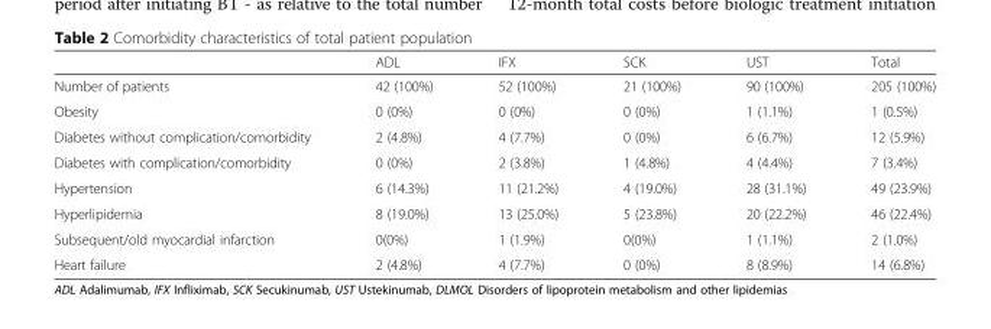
<table><thead><tr><td></td><td>ADL</td><td>IFX</td><td>SCK</td><td>UST</td><td>Total</td></tr></thead><tbody><tr><td>Number of patients</td><td>42 (100%)</td><td>52 (100%)</td><td>21 (100%)</td><td>90 (100%)</td><td>205 (100%)</td></tr><tr><td>Obesity</td><td>0 (0%)</td><td>0 (0%)</td><td>0 (0%)</td><td>1 (1.1%)</td><td>1 (0.5%)</td></tr><tr><td>Diabetes without complication/comorbidity</td><td>2 (4.8%)</td><td>4 (7.7%)</td><td>0 (0%)</td><td>6 (6.7%)</td><td>12 (5.9%)</td></tr><tr><td>Diabetes with complication/comorbidity</td><td>0 (0%)</td><td>2 (3.8%)</td><td>1 (4.8%)</td><td>4 (4.4%)</td><td>7 (3.4%)</td></tr><tr><td>Hypertension</td><td>6 (14.3%)</td><td>11 (21.2%)</td><td>4 (19.0%)</td><td>28 (31.1%)</td><td>49 (23.9%)</td></tr><tr><td>Hyperlipidemia</td><td>8 (19.0%)</td><td>13 (25.0%)</td><td>5 (23.8%)</td><td>20 (22.2%)</td><td>46 (22.4%)</td></tr><tr><td>Subsequent/old myocardial infarction</td><td>0(0%)</td><td>1 (1.9%)</td><td>0(0%)</td><td>1 (1.1%)</td><td>2 (1.0%)</td></tr><tr><td>Heart failure</td><td>2 (4.8%)</td><td>4 (7.7%)</td><td>0 (0%)</td><td>8 (8.9%)</td><td>14 (6.8%)</td></tr></tbody></table>